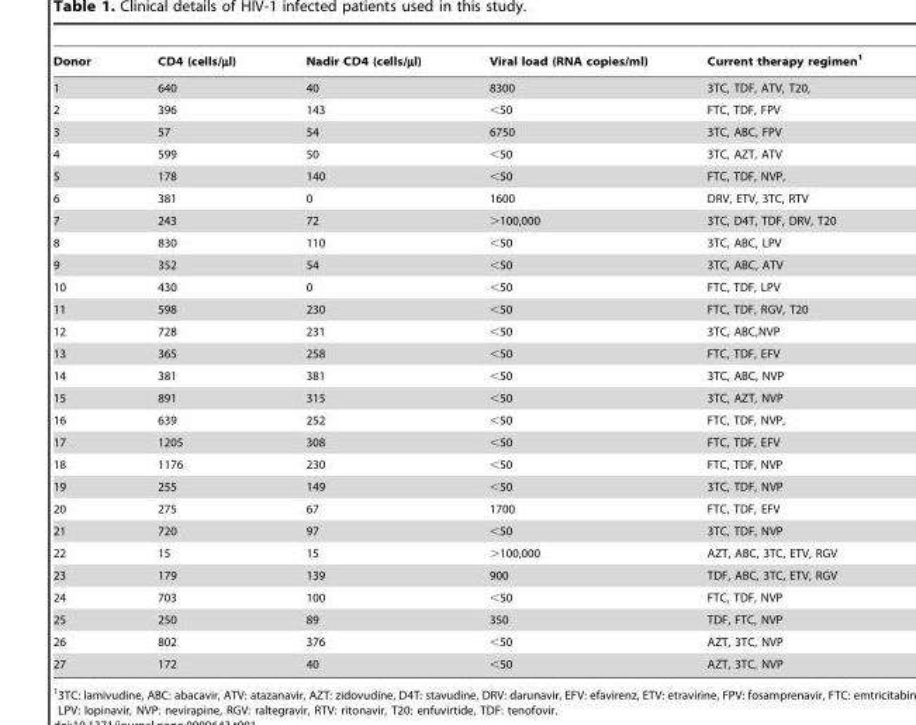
<table><thead><tr><td>Donor</td><td>CD4 (cells/µl)</td><td>Nadir CD4 (cells/µl)</td><td>Viral load (RNA copies/ml)</td><td>Current therapy regimen<sup>1</sup></td></tr></thead><tbody><tr><td>1</td><td>640</td><td>40</td><td>8300</td><td>3TC, TDF, ATV, T20,</td></tr><tr><td>2</td><td>396</td><td>143</td><td>&lt;50</td><td>FTC, TDF, FPV</td></tr><tr><td>3</td><td>57</td><td>54</td><td>6750</td><td>3TC, ABC, FPV</td></tr><tr><td>4</td><td>599</td><td>50</td><td>&lt;50</td><td>3TC, AZT, ATV</td></tr><tr><td>5</td><td>178</td><td>140</td><td>&lt;50</td><td>FTC, TDF, NVP,</td></tr><tr><td>6</td><td>381</td><td>0</td><td>1600</td><td>DRV, ETV, 3TC, RTV</td></tr><tr><td>7</td><td>243</td><td>72</td><td>&gt;100,000</td><td>3TC, D4T, TDF, DRV, T20</td></tr><tr><td>8</td><td>830</td><td>110</td><td>&lt;50</td><td>3TC, ABC, LPV</td></tr><tr><td>9</td><td>352</td><td>54</td><td>&lt;50</td><td>3TC, ABC, ATV</td></tr><tr><td>10</td><td>430</td><td>0</td><td>&lt;50</td><td>FTC, TDF, LPV</td></tr><tr><td>11</td><td>598</td><td>230</td><td>&lt;50</td><td>FTC, TDF, RGV, T20</td></tr><tr><td>12</td><td>728</td><td>231</td><td>&lt;50</td><td>3TC, ABC,NVP</td></tr><tr><td>13</td><td>365</td><td>258</td><td>&lt;50</td><td>FTC, TDF, EFV</td></tr><tr><td>14</td><td>381</td><td>381</td><td>&lt;50</td><td>3TC, ABC, NVP</td></tr><tr><td>15</td><td>891</td><td>315</td><td>&lt;50</td><td>3TC, AZT, NVP</td></tr><tr><td>16</td><td>639</td><td>252</td><td>&lt;50</td><td>FTC, TDF, NVP,</td></tr><tr><td>17</td><td>1205</td><td>308</td><td>&lt;50</td><td>FTC, TDF, EFV</td></tr><tr><td>18</td><td>1176</td><td>230</td><td>&lt;50</td><td>FTC, TDF, NVP</td></tr><tr><td>19</td><td>255</td><td>149</td><td>&lt;50</td><td>3TC, TDF, NVP</td></tr><tr><td>20</td><td>275</td><td>67</td><td>1700</td><td>FTC, TDF, EFV</td></tr><tr><td>21</td><td>720</td><td>97</td><td>&lt;50</td><td>3TC, TDF, NVP</td></tr><tr><td>22</td><td>15</td><td>15</td><td>&gt;100,000</td><td>AZT, ABC, 3TC, ETV, RGV</td></tr><tr><td>23</td><td>179</td><td>139</td><td>900</td><td>TDF, ABC, 3TC, ETV, RGV</td></tr><tr><td>24</td><td>703</td><td>100</td><td>&lt;50</td><td>FTC, TDF, NVP</td></tr><tr><td>25</td><td>250</td><td>89</td><td>350</td><td>TDF, FTC, NVP</td></tr><tr><td>26</td><td>802</td><td>376</td><td>&lt;50</td><td>AZT, 3TC, NVP</td></tr><tr><td>27</td><td>172</td><td>40</td><td>&lt;50</td><td>AZT, 3TC, NVP</td></tr></tbody></table>